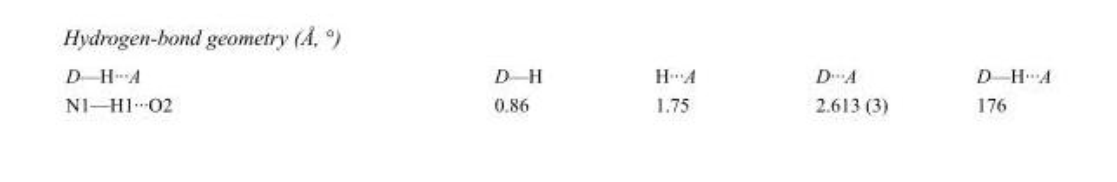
<table><tbody><tr><td>D—H···A</td><td>D—H</td><td>H···A</td><td>D···A</td><td>D—H···A</td></tr><tr><td>N1—H1···O2</td><td>0.86</td><td>1.75</td><td>2.613 (3)</td><td>176</td></tr></tbody></table>